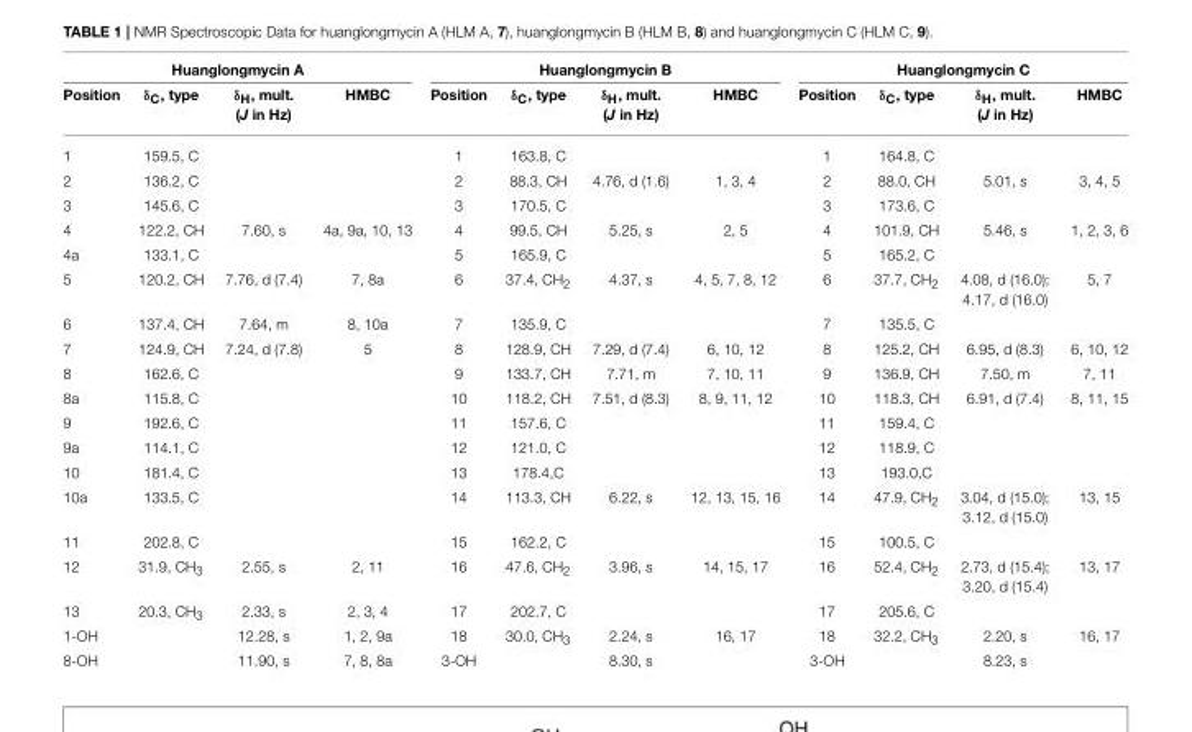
<table><thead><tr><td colspan="4">Huanglongmycin A</td><td colspan="4">Huanglongmycin B</td><td colspan="4">Huanglongmycin C</td></tr><tr><td>Position</td><td>δ<sub>C</sub>, type</td><td>δ<sub>H</sub>, mult. (J in Hz)</td><td>HMBC</td><td>Position</td><td>δ<sub>C</sub>, type</td><td>δ<sub>H</sub>, mult. (J in Hz)</td><td>HMBC</td><td>Position</td><td>δ<sub>C</sub>, type</td><td>δ<sub>H</sub>, mult. (J in Hz)</td><td>HMBC</td></tr></thead><tbody><tr><td>1</td><td>159.5, C</td><td></td><td></td><td>1</td><td>163.8, C</td><td></td><td></td><td>1</td><td>164.8, C</td><td></td><td></td></tr><tr><td>2</td><td>136.2, C</td><td></td><td></td><td>2</td><td>88.3, CH</td><td>4.76, d (1.6)</td><td>1, 3, 4</td><td>2</td><td>88.0, CH</td><td>5.01, s</td><td>3, 4, 5</td></tr><tr><td>3</td><td>145.6, C</td><td></td><td></td><td>3</td><td>170.5, C</td><td></td><td></td><td>3</td><td>173.6, C</td><td></td><td></td></tr><tr><td>4</td><td>122.2, CH</td><td>7.60, s</td><td>4a, 9a, 10, 13</td><td>4</td><td>99.5, CH</td><td>5.25, s</td><td>2, 5</td><td>4</td><td>101.9, CH</td><td>5.46, s</td><td>1, 2, 3, 6</td></tr><tr><td>4a</td><td>133.1, C</td><td></td><td></td><td>5</td><td>165.9, C</td><td></td><td></td><td>5</td><td>165.2, C</td><td></td><td></td></tr><tr><td>5</td><td>120.2, CH</td><td>7.76, d (7.4)</td><td>7, 8a</td><td>6</td><td>37.4, CH<sub>2</sub></td><td>4.37, s</td><td>4, 5, 7, 8, 12</td><td>6</td><td>37.7, CH<sub>2</sub></td><td>4.08, d (16.0); 4.17, d (16.0)</td><td>5, 7</td></tr><tr><td>6</td><td>137.4, CH</td><td>7.64, m</td><td>8, 10a</td><td>7</td><td>135.9, C</td><td></td><td></td><td>7</td><td>135.5, C</td><td></td><td></td></tr><tr><td>7</td><td>124.9, CH</td><td>7.24, d (7.8)</td><td>5</td><td>8</td><td>128.9, CH</td><td>7.29, d (7.4)</td><td>6, 10, 12</td><td>8</td><td>125.2, CH</td><td>6.95, d (8.3)</td><td>6, 10, 12</td></tr><tr><td>8</td><td>162.6, C</td><td></td><td></td><td>9</td><td>133.7, CH</td><td>7.71, m</td><td>7, 10, 11</td><td>9</td><td>136.9, CH</td><td>7.50, m</td><td>7, 11</td></tr><tr><td>8a</td><td>115.8, C</td><td></td><td></td><td>10</td><td>118.2, CH</td><td>7.51, d (8.3)</td><td>8, 9, 11, 12</td><td>10</td><td>118.3, CH</td><td>6.91, d (7.4)</td><td>8, 11, 15</td></tr><tr><td>9</td><td>192.6, C</td><td></td><td></td><td>11</td><td>157.6, C</td><td></td><td></td><td>11</td><td>159.4, C</td><td></td><td></td></tr><tr><td>9a</td><td>114.1, C</td><td></td><td></td><td>12</td><td>121.0, C</td><td></td><td></td><td>12</td><td>118.9, C</td><td></td><td></td></tr><tr><td>10</td><td>181.4, C</td><td></td><td></td><td>13</td><td>178.4,C</td><td></td><td></td><td>13</td><td>193.0,C</td><td></td><td></td></tr><tr><td>10a</td><td>133.5, C</td><td></td><td></td><td>14</td><td>113.3, CH</td><td>6.22, s</td><td>12, 13, 15, 16</td><td>14</td><td>47.9, CH<sub>2</sub></td><td>3.04, d (15.0); 3.12, d (15.0)</td><td>13, 15</td></tr><tr><td>11</td><td>202.8, C</td><td></td><td></td><td>15</td><td>162.2, C</td><td></td><td></td><td>15</td><td>100.5, C</td><td></td><td></td></tr><tr><td>12</td><td>31.9, CH<sub>3</sub></td><td>2.55, s</td><td>2, 11</td><td>16</td><td>47.6, CH<sub>2</sub></td><td>3.96, s</td><td>14, 15, 17</td><td>16</td><td>52.4, CH<sub>2</sub></td><td>2.73, d (15.4); 3.20, d (15.4)</td><td>13, 17</td></tr><tr><td>13</td><td>20.3, CH<sub>3</sub></td><td>2.33, s</td><td>2, 3, 4</td><td>17</td><td>202.7, C</td><td></td><td></td><td>17</td><td>205.6, C</td><td></td><td></td></tr><tr><td>1-OH</td><td></td><td>12.28, s</td><td>1, 2, 9a</td><td>18</td><td>30.0, CH<sub>3</sub></td><td>2.24, s</td><td>16, 17</td><td>18</td><td>32.2, CH<sub>3</sub></td><td>2.20, s</td><td>16, 17</td></tr><tr><td>8-OH</td><td></td><td>11.90, s</td><td>7, 8, 8a</td><td>3-OH</td><td></td><td>8.30, s</td><td></td><td>3-OH</td><td></td><td>8.23, s</td><td></td></tr></tbody></table>